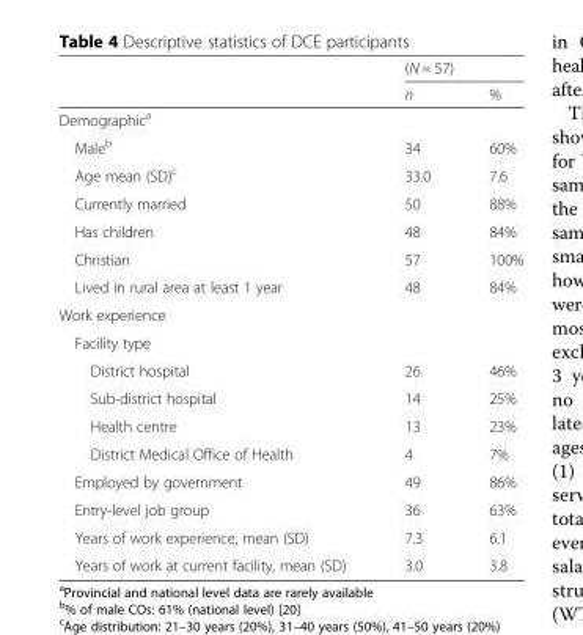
<table><thead><tr><td rowspan="2"></td><td colspan="2">(N = 57)</td></tr><tr><td>n</td><td>%</td></tr></thead><tbody><tr><td colspan="3">Demographic<sup>a</sup></td></tr><tr><td>Male<sup>b</sup></td><td>34</td><td>60%</td></tr><tr><td>Age mean (SD)<sup>c</sup></td><td>33.0</td><td>7.6</td></tr><tr><td>Currently married</td><td>50</td><td>88%</td></tr><tr><td>Has children</td><td>48</td><td>84%</td></tr><tr><td>Christian</td><td>57</td><td>100%</td></tr><tr><td>Lived in rural area at least 1 year</td><td>48</td><td>84%</td></tr><tr><td colspan="3">Work experience</td></tr><tr><td colspan="3">Facility type</td></tr><tr><td>District hospital</td><td>26</td><td>46%</td></tr><tr><td>Sub-district hospital</td><td>14</td><td>25%</td></tr><tr><td>Health centre</td><td>13</td><td>23%</td></tr><tr><td>District Medical Office of Health</td><td>4</td><td>7%</td></tr><tr><td>Employed by government</td><td>49</td><td>86%</td></tr><tr><td>Entry-level job group</td><td>36</td><td>63%</td></tr><tr><td>Years of work experience, mean (SD)</td><td>7.3</td><td>6.1</td></tr><tr><td>Years of work at current facility, mean (SD)</td><td>3.0</td><td>3.8</td></tr></tbody></table>